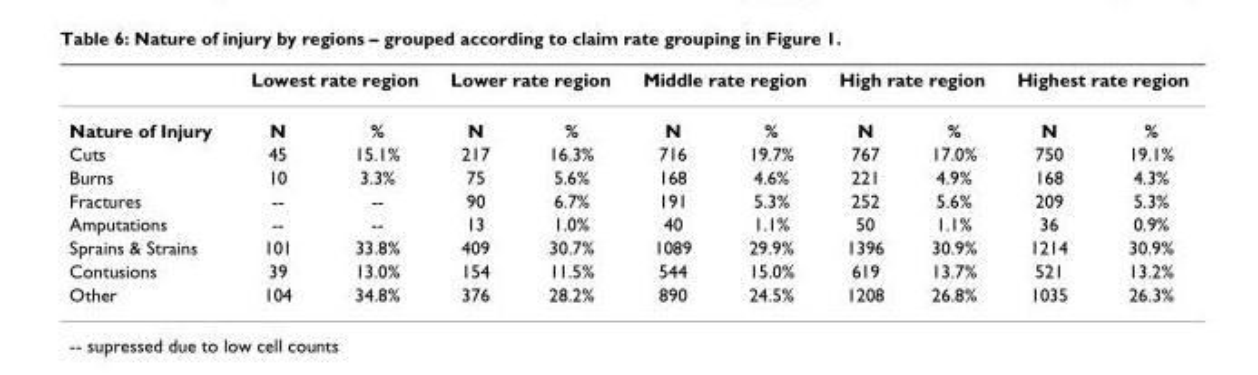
<table><thead><tr><td rowspan="2">Nature of Injury</td><td colspan="2">Lowest rate region</td><td colspan="2">Lower rate region</td><td colspan="2">Middle rate region</td><td colspan="2">High rate region</td><td colspan="2">Highest rate region</td></tr><tr><td>N</td><td>%</td><td>N</td><td>%</td><td>N</td><td>%</td><td>N</td><td>%</td><td>N</td><td>%</td></tr></thead><tbody><tr><td>Cuts</td><td>45</td><td>15.1%</td><td>217</td><td>16.3%</td><td>716</td><td>19.7%</td><td>767</td><td>17.0%</td><td>750</td><td>19.1%</td></tr><tr><td>Burns</td><td>10</td><td>3.3%</td><td>75</td><td>5.6%</td><td>168</td><td>4.6%</td><td>221</td><td>4.9%</td><td>168</td><td>4.3%</td></tr><tr><td>Fractures</td><td>--</td><td>--</td><td>90</td><td>6.7%</td><td>191</td><td>5.3%</td><td>252</td><td>5.6%</td><td>209</td><td>5.3%</td></tr><tr><td>Amputations</td><td>--</td><td>--</td><td>13</td><td>1.0%</td><td>40</td><td>1.1%</td><td>50</td><td>1.1%</td><td>36</td><td>0.9%</td></tr><tr><td>Sprains &amp; Strains</td><td>101</td><td>33.8%</td><td>409</td><td>30.7%</td><td>1089</td><td>29.9%</td><td>1396</td><td>30.9%</td><td>1214</td><td>30.9%</td></tr><tr><td>Contusions</td><td>39</td><td>13.0%</td><td>154</td><td>11.5%</td><td>544</td><td>15.0%</td><td>619</td><td>13.7%</td><td>521</td><td>13.2%</td></tr><tr><td>Other</td><td>104</td><td>34.8%</td><td>376</td><td>28.2%</td><td>890</td><td>24.5%</td><td>1208</td><td>26.8%</td><td>1035</td><td>26.3%</td></tr></tbody></table>